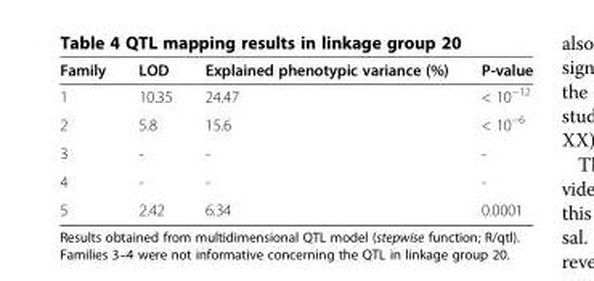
<table><thead><tr><td>Family</td><td>LOD</td><td>Explained phenotypic variance (%)</td><td>P-value</td></tr></thead><tbody><tr><td>1</td><td>10.35</td><td>24.47</td><td>&lt; 10<sup>−12</sup></td></tr><tr><td>2</td><td>5.8</td><td>15.6</td><td>&lt; 10<sup>−6</sup></td></tr><tr><td>3</td><td>-</td><td>-</td><td>-</td></tr><tr><td>4</td><td>-</td><td>-</td><td>-</td></tr><tr><td>5</td><td>2.42</td><td>6.34</td><td>0.0001</td></tr></tbody></table>